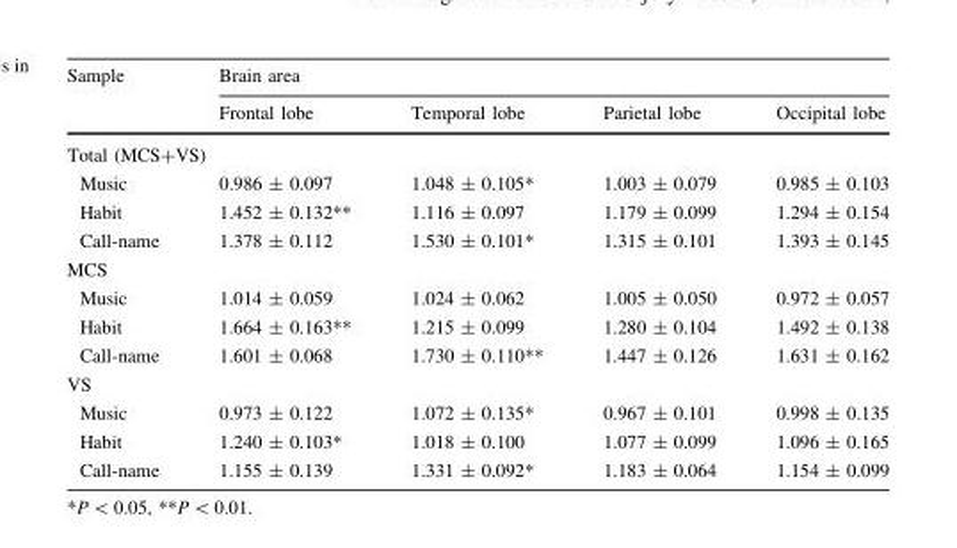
<table><thead><tr><td rowspan="2">Sample</td><td colspan="4">Brain area</td></tr><tr><td>Frontal lobe</td><td>Temporal lobe</td><td>Parietal lobe</td><td>Occipital lobe</td></tr></thead><tbody><tr><td colspan="5">Total (MCS+VS)</td></tr><tr><td>Music</td><td>0.986 ± 0.097</td><td>1.048 ± 0.105*</td><td>1.003 ± 0.079</td><td>0.985 ± 0.103</td></tr><tr><td>Habit</td><td>1.452 ± 0.132**</td><td>1.116 ± 0.097</td><td>1.179 ± 0.099</td><td>1.294 ± 0.154</td></tr><tr><td>Call-name</td><td>1.378 ± 0.112</td><td>1.530 ± 0.101*</td><td>1.315 ± 0.101</td><td>1.393 ± 0.145</td></tr><tr><td colspan="5">MCS</td></tr><tr><td>Music</td><td>1.014 ± 0.059</td><td>1.024 ± 0.062</td><td>1.005 ± 0.050</td><td>0.972 ± 0.057</td></tr><tr><td>Habit</td><td>1.664 ± 0.163**</td><td>1.215 ± 0.099</td><td>1.280 ± 0.104</td><td>1.492 ± 0.138</td></tr><tr><td>Call-name</td><td>1.601 ± 0.068</td><td>1.730 ± 0.110**</td><td>1.447 ± 0.126</td><td>1.631 ± 0.162</td></tr><tr><td colspan="5">VS</td></tr><tr><td>Music</td><td>0.973 ± 0.122</td><td>1.072 ± 0.135*</td><td>0.967 ± 0.101</td><td>0.998 ± 0.135</td></tr><tr><td>Habit</td><td>1.240 ± 0.103*</td><td>1.018 ± 0.100</td><td>1.077 ± 0.099</td><td>1.096 ± 0.165</td></tr><tr><td>Call-name</td><td>1.155 ± 0.139</td><td>1.331 ± 0.092*</td><td>1.183 ± 0.064</td><td>1.154 ± 0.099</td></tr></tbody></table>